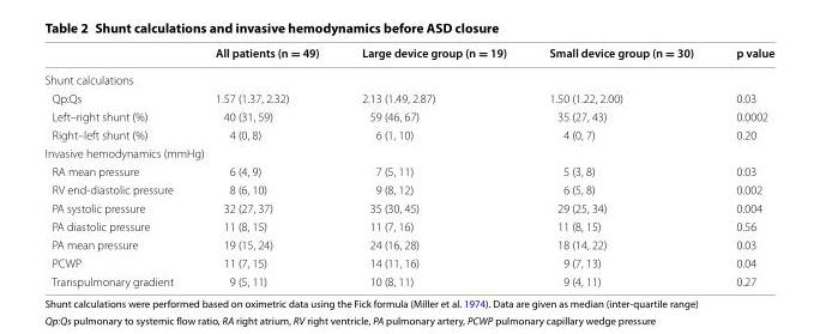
<table><thead><tr><td></td><td>All patients (n = 49)</td><td>Large device group (n = 19)</td><td>Small device group (n = 30)</td><td>p value</td></tr></thead><tbody><tr><td colspan="5">Shunt calculations</td></tr><tr><td>Qp:Qs</td><td>1.57 (1.37, 2.32)</td><td>2.13 (1.49, 2.87)</td><td>1.50 (1.22, 2.00)</td><td>0.03</td></tr><tr><td>Left–right shunt (%)</td><td>40 (31, 59)</td><td>59 (46, 67)</td><td>35 (27, 43)</td><td>0.0002</td></tr><tr><td>Right–left shunt (%)</td><td>4 (0, 8)</td><td>6 (1, 10)</td><td>4 (0, 7)</td><td>0.20</td></tr><tr><td colspan="5">Invasive hemodynamics (mmHg)</td></tr><tr><td>RA mean pressure</td><td>6 (4, 9)</td><td>7 (5, 11)</td><td>5 (3, 8)</td><td>0.03</td></tr><tr><td>RV end-diastolic pressure</td><td>8 (6, 10)</td><td>9 (8, 12)</td><td>6 (5, 8)</td><td>0.002</td></tr><tr><td>PA systolic pressure</td><td>32 (27, 37)</td><td>35 (30, 45)</td><td>29 (25, 34)</td><td>0.004</td></tr><tr><td>PA diastolic pressure</td><td>11 (8, 15)</td><td>11 (7, 16)</td><td>11 (8, 15)</td><td>0.56</td></tr><tr><td>PA mean pressure</td><td>19 (15, 24)</td><td>24 (16, 28)</td><td>18 (14, 22)</td><td>0.03</td></tr><tr><td>PCWP</td><td>11 (7, 15)</td><td>14 (11, 16)</td><td>9 (7, 13)</td><td>0.04</td></tr><tr><td>Transpulmonary gradient</td><td>9 (5, 11)</td><td>10 (8, 11)</td><td>9 (4, 11)</td><td>0.27</td></tr></tbody></table>